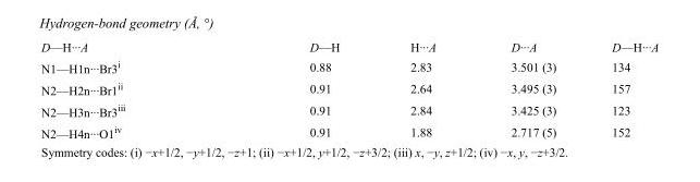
<table><tbody><tr><td>D—H···A</td><td>D—H</td><td>H···A</td><td>D···A</td><td>D—H···A</td></tr><tr><td>N1—H1n···Br3<sup>i</sup></td><td>0.88</td><td>2.83</td><td>3.501 (3)</td><td>134</td></tr><tr><td>N2—H2n···Br1<sup>ii</sup></td><td>0.91</td><td>2.64</td><td>3.495 (3)</td><td>157</td></tr><tr><td>N2—H3n···Br3<sup>iii</sup></td><td>0.91</td><td>2.84</td><td>3.425 (3)</td><td>123</td></tr><tr><td>N2—H4n···O1<sup>iv</sup></td><td>0.91</td><td>1.88</td><td>2.717 (5)</td><td>152</td></tr></tbody></table>